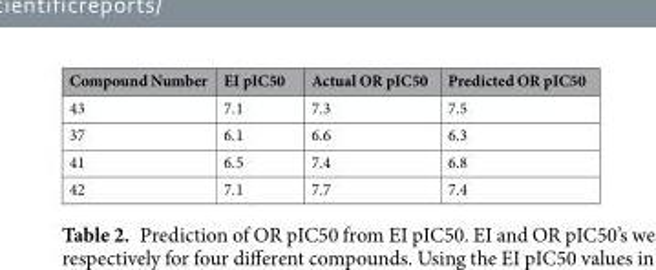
<table><thead><tr><td>Compound Number</td><td>EI pIC50</td><td>Actual OR pIC50</td><td>Predicted OR pIC50</td></tr></thead><tbody><tr><td>43</td><td>7.1</td><td>7.3</td><td>7.5</td></tr><tr><td>37</td><td>6.1</td><td>6.6</td><td>6.3</td></tr><tr><td>41</td><td>6.5</td><td>7.4</td><td>6.8</td></tr><tr><td>42</td><td>7.1</td><td>7.7</td><td>7.4</td></tr></tbody></table>